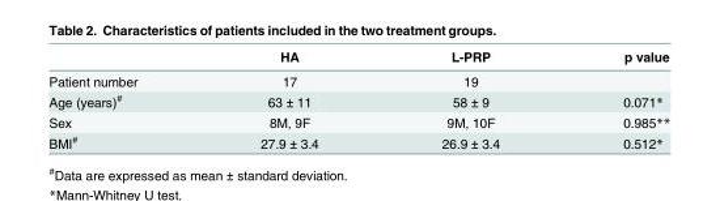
<table><thead><tr><td></td><td>HA</td><td>L-PRP</td><td>p value</td></tr></thead><tbody><tr><td>Patient number</td><td>17</td><td>19</td><td></td></tr><tr><td>Age (years)<sup>#</sup></td><td>63 ± 11</td><td>58 ± 9</td><td>0.071*</td></tr><tr><td>Sex</td><td>8M, 9F</td><td>9M, 10F</td><td>0.985**</td></tr><tr><td>BMI<sup>#</sup></td><td>27.9 ± 3.4</td><td>26.9 ± 3.4</td><td>0.512*</td></tr></tbody></table>